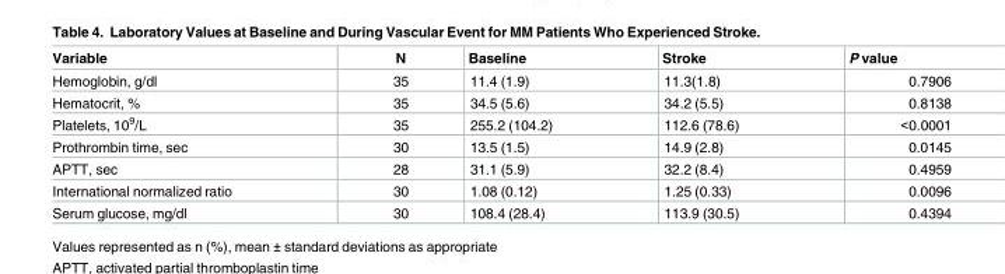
<table><thead><tr><td>Variable</td><td>N</td><td>Baseline</td><td>Stroke</td><td>P value</td></tr></thead><tbody><tr><td>Hemoglobin, g/dl</td><td>35</td><td>11.4 (1.9)</td><td>11.3(1.8)</td><td>0.7906</td></tr><tr><td>Hematocrit, %</td><td>35</td><td>34.5 (5.6)</td><td>34.2 (5.5)</td><td>0.8138</td></tr><tr><td>Platelets, 10<sup>9</sup>/L</td><td>35</td><td>255.2 (104.2)</td><td>112.6 (78.6)</td><td>&lt;0.0001</td></tr><tr><td>Prothrombin time, sec</td><td>30</td><td>13.5 (1.5)</td><td>14.9 (2.8)</td><td>0.0145</td></tr><tr><td>APTT, sec</td><td>28</td><td>31.1 (5.9)</td><td>32.2 (8.4)</td><td>0.4959</td></tr><tr><td>International normalized ratio</td><td>30</td><td>1.08 (0.12)</td><td>1.25 (0.33)</td><td>0.0096</td></tr><tr><td>Serum glucose, mg/dl</td><td>30</td><td>108.4 (28.4)</td><td>113.9 (30.5)</td><td>0.4394</td></tr></tbody></table>